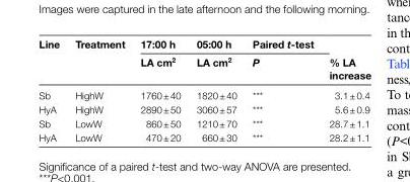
<table><thead><tr><td rowspan="2">Line</td><td rowspan="2">Treatment</td><td rowspan="2">17:00 h LA cm<sup>2</sup></td><td rowspan="2">05:00 h LA cm<sup>2</sup></td><td rowspan="2">Paired t-test P</td><td rowspan="2">% LA increase</td></tr><tr></tr></thead><tbody><tr><td>Sb</td><td>HighW</td><td>1760 ± 40</td><td>1820 ± 40</td><td>***</td><td>3.1 ± 0.4</td></tr><tr><td>HyA</td><td>HighW</td><td>2890 ± 50</td><td>3060 ± 57</td><td>***</td><td>5.6 ± 0.9</td></tr><tr><td>Sb</td><td>LowW</td><td>860 ± 50</td><td>1210 ± 70</td><td>***</td><td>28.7 ± 1.1</td></tr><tr><td>HyA</td><td>LowW</td><td>470 ± 20</td><td>660 ± 30</td><td>***</td><td>28.2 ± 1.1</td></tr></tbody></table>